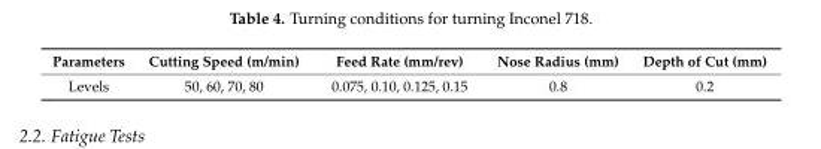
<table><thead><tr><td>Parameters</td><td>Cutting Speed (m/min)</td><td>Feed Rate (mm/rev)</td><td>Nose Radius (mm)</td><td>Depth of Cut (mm)</td></tr></thead><tbody><tr><td>Levels</td><td>50, 60, 70, 80</td><td>0.075, 0.10, 0.125, 0.15</td><td>0.8</td><td>0.2</td></tr></tbody></table>